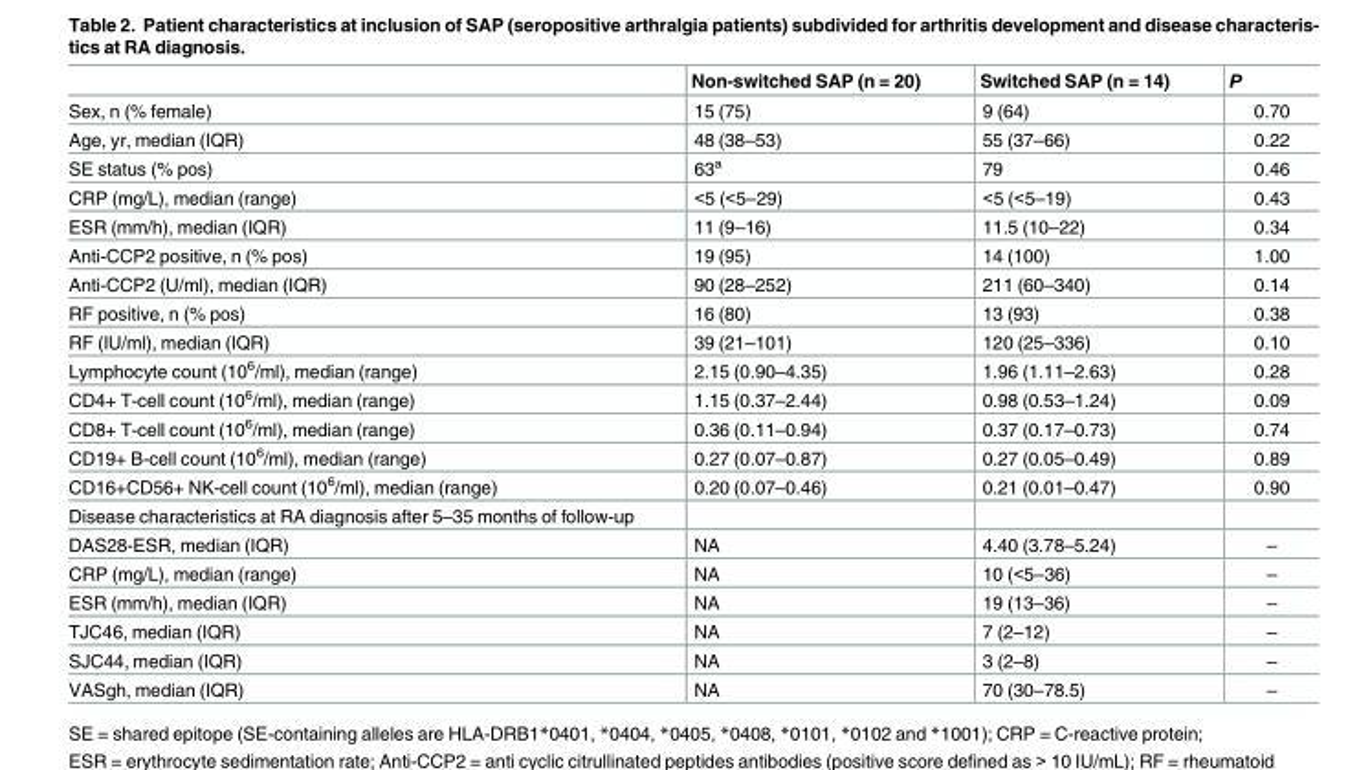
<table><thead><tr><td></td><td>Non-switched SAP (n = 20)</td><td>Switched SAP (n = 14)</td><td>P</td></tr></thead><tbody><tr><td>Sex, n (% female)</td><td>15 (75)</td><td>9 (64)</td><td>0.70</td></tr><tr><td>Age, yr, median (IQR)</td><td>48 (38–53)</td><td>55 (37–66)</td><td>0.22</td></tr><tr><td>SE status (% pos)</td><td>63<sup>a</sup></td><td>79</td><td>0.46</td></tr><tr><td>CRP (mg/L), median (range)</td><td>&lt;5 (&lt;5–29)</td><td>&lt;5 (&lt;5–19)</td><td>0.43</td></tr><tr><td>ESR (mm/h), median (IQR)</td><td>11 (9–16)</td><td>11.5 (10–22)</td><td>0.34</td></tr><tr><td>Anti-CCP2 positive, n (% pos)</td><td>19 (95)</td><td>14 (100)</td><td>1.00</td></tr><tr><td>Anti-CCP2 (U/ml), median (IQR)</td><td>90 (28–252)</td><td>211 (60–340)</td><td>0.14</td></tr><tr><td>RF positive, n (% pos)</td><td>16 (80)</td><td>13 (93)</td><td>0.38</td></tr><tr><td>RF (IU/ml), median (IQR)</td><td>39 (21–101)</td><td>120 (25–336)</td><td>0.10</td></tr><tr><td>Lymphocyte count (10<sup>6</sup>/ml), median (range)</td><td>2.15 (0.90–4.35)</td><td>1.96 (1.11–2.63)</td><td>0.28</td></tr><tr><td>CD4+ T-cell count (10<sup>6</sup>/ml), median (range)</td><td>1.15 (0.37–2.44)</td><td>0.98 (0.53–1.24)</td><td>0.09</td></tr><tr><td>CD8+ T-cell count (10<sup>6</sup>/ml), median (range)</td><td>0.36 (0.11–0.94)</td><td>0.37 (0.17–0.73)</td><td>0.74</td></tr><tr><td>CD19+ B-cell count (10<sup>6</sup>/ml), median (range)</td><td>0.27 (0.07–0.87)</td><td>0.27 (0.05–0.49)</td><td>0.89</td></tr><tr><td>CD16+CD56+ NK-cell count (10<sup>6</sup>/ml), median (range)</td><td>0.20 (0.07–0.46)</td><td>0.21 (0.01–0.47)</td><td>0.90</td></tr><tr><td colspan="4">Disease characteristics at RA diagnosis after 5–35 months of follow-up</td></tr><tr><td>DAS28-ESR, median (IQR)</td><td>NA</td><td>4.40 (3.78–5.24)</td><td>–</td></tr><tr><td>CRP (mg/L), median (range)</td><td>NA</td><td>10 (&lt;5–36)</td><td>–</td></tr><tr><td>ESR (mm/h), median (IQR)</td><td>NA</td><td>19 (13–36)</td><td>–</td></tr><tr><td>TJC46, median (IQR)</td><td>NA</td><td>7 (2–12)</td><td>–</td></tr><tr><td>SJC44, median (IQR)</td><td>NA</td><td>3 (2–8)</td><td>–</td></tr><tr><td>VASgh, median (IQR)</td><td>NA</td><td>70 (30–78.5)</td><td>–</td></tr></tbody></table>